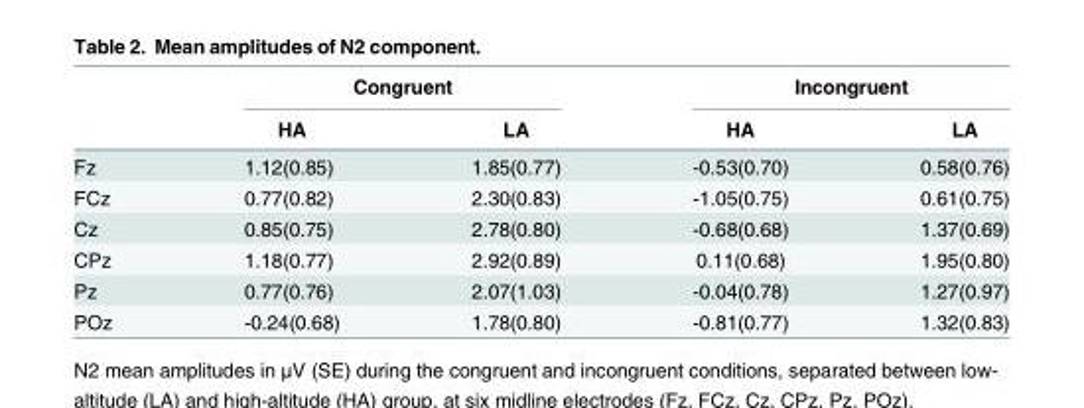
<table><thead><tr><td rowspan="2"></td><td colspan="2">Congruent</td><td colspan="2">Incongruent</td></tr><tr><td>HA</td><td>LA</td><td>HA</td><td>LA</td></tr></thead><tbody><tr><td>Fz</td><td>1.12(0.85)</td><td>1.85(0.77)</td><td>-0.53(0.70)</td><td>0.58(0.76)</td></tr><tr><td>FCz</td><td>0.77(0.82)</td><td>2.30(0.83)</td><td>-1.05(0.75)</td><td>0.61(0.75)</td></tr><tr><td>Cz</td><td>0.85(0.75)</td><td>2.78(0.80)</td><td>-0.68(0.68)</td><td>1.37(0.69)</td></tr><tr><td>CPz</td><td>1.18(0.77)</td><td>2.92(0.89)</td><td>0.11(0.68)</td><td>1.95(0.80)</td></tr><tr><td>Pz</td><td>0.77(0.76)</td><td>2.07(1.03)</td><td>-0.04(0.78)</td><td>1.27(0.97)</td></tr><tr><td>POz</td><td>-0.24(0.68)</td><td>1.78(0.80)</td><td>-0.81(0.77)</td><td>1.32(0.83)</td></tr></tbody></table>